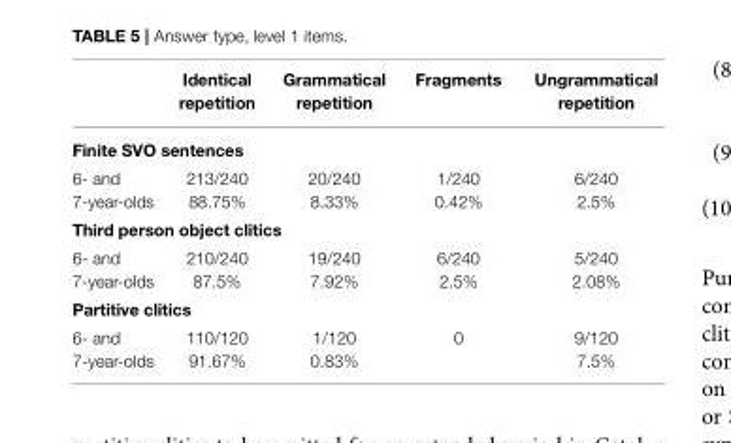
<table><thead><tr><td></td><td>Identical repetition</td><td>Grammatical repetition</td><td>Fragments</td><td>Ungrammatical repetition</td></tr></thead><tbody><tr><td colspan="5">Finite SVO sentences</td></tr><tr><td>6- and 7-year-olds</td><td>213/240 88.75%</td><td>20/240 8.33%</td><td>1/240 0.42%</td><td>6/240 2.5%</td></tr><tr><td colspan="5">Third person object clitics</td></tr><tr><td>6- and 7-year-olds</td><td>210/240 87.5%</td><td>19/240 7.92%</td><td>6/240 2.5%</td><td>5/240 2.08%</td></tr><tr><td colspan="5">Partitive clitics</td></tr><tr><td>6- and 7-year-olds</td><td>110/120 91.67%</td><td>1/120 0.83%</td><td>0</td><td>9/120 7.5%</td></tr></tbody></table>